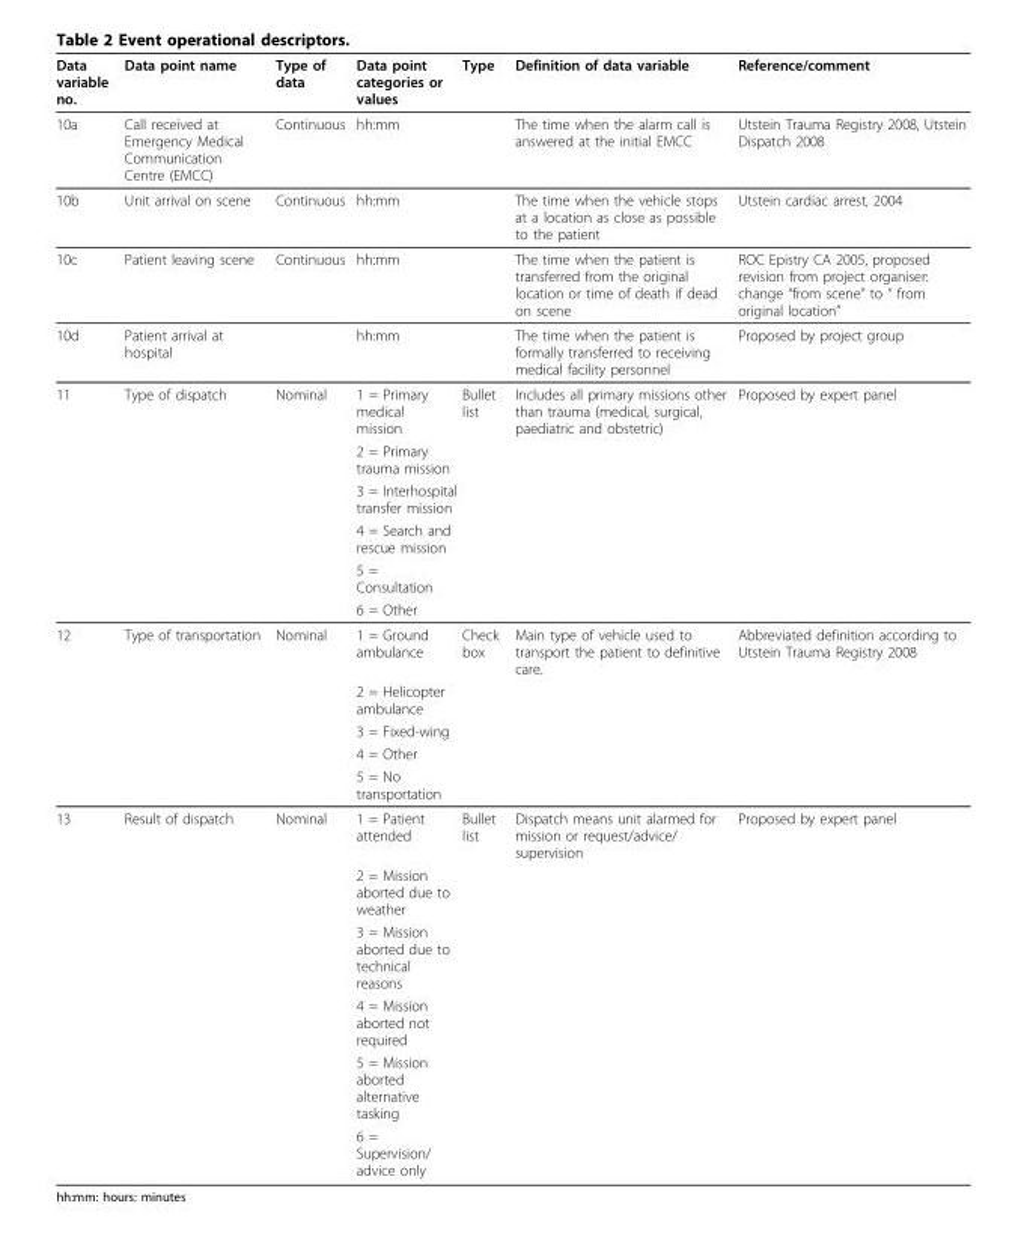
<table><thead><tr><td>Data variable no.</td><td>Data point name</td><td>Type of data</td><td>Data point categories or values</td><td>Type</td><td>Definition of data variable</td><td>Reference/comment</td></tr></thead><tbody><tr><td>10a</td><td>Call received at Emergency Medical Communication Centre (EMCC)</td><td>Continuous</td><td>hh:mm</td><td></td><td>The time when the alarm call is answered at the initial EMCC</td><td>Utstein Trauma Registry 2008, Utstein Dispatch 2008</td></tr><tr><td>10b</td><td>Unit arrival on scene</td><td>Continuous</td><td>hh:mm</td><td></td><td>The time when the vehicle stops at a location as close as possible to the patient</td><td>Utstein cardiac arrest, 2004</td></tr><tr><td>10c</td><td>Patient leaving scene</td><td>Continuous</td><td>hh:mm</td><td></td><td>The time when the patient is transferred from the original location or time of death if dead on scene</td><td>ROC Epistry CA 2005, proposed revision from project organiser: change “from scene” to “ from original location”</td></tr><tr><td>10d</td><td>Patient arrival at hospital</td><td></td><td>hh:mm</td><td></td><td>The time when the patient is formally transferred to receiving medical facility personnel</td><td>Proposed by project group</td></tr><tr><td rowspan="6">11</td><td>Type of dispatch</td><td>Nominal</td><td>1 = Primary medical mission</td><td>Bullet list</td><td>Includes all primary missions other than trauma (medical, surgical, paediatric and obstetric)</td><td>Proposed by expert panel</td></tr><tr><td></td><td></td><td>2 = Primary trauma mission</td><td></td><td></td><td></td></tr><tr><td></td><td></td><td colspan="2">3 = Interhospital transfer mission</td><td></td><td></td></tr><tr><td></td><td></td><td>4 = Search and rescue mission</td><td></td><td></td><td></td></tr><tr><td></td><td></td><td>5 = Consultation</td><td></td><td></td><td></td></tr><tr><td></td><td></td><td>6 = Other</td><td></td><td></td><td></td></tr><tr><td rowspan="5">12</td><td>Type of transportation</td><td>Nominal</td><td>1 = Ground ambulance</td><td>Check box</td><td>Main type of vehicle used to transport the patient to definitive care.</td><td>Abbreviated definition according to Utstein Trauma Registry 2008</td></tr><tr><td></td><td></td><td>2 = Helicopter ambulance</td><td></td><td></td><td></td></tr><tr><td></td><td></td><td>3 = Fixed-wing</td><td></td><td></td><td></td></tr><tr><td></td><td></td><td>4 = Other</td><td></td><td></td><td></td></tr><tr><td></td><td></td><td>5 = No transportation</td><td></td><td></td><td></td></tr><tr><td rowspan="6">13</td><td>Result of dispatch</td><td>Nominal</td><td>1 = Patient attended</td><td>Bullet list</td><td>Dispatch means unit alarmed for mission or request/advice/ supervision</td><td>Proposed by expert panel</td></tr><tr><td></td><td></td><td>2 = Mission aborted due to weather</td><td></td><td></td><td></td></tr><tr><td></td><td></td><td>3 = Mission aborted due to technical reasons</td><td></td><td></td><td></td></tr><tr><td></td><td></td><td>4 = Mission aborted not required</td><td></td><td></td><td></td></tr><tr><td></td><td></td><td>5 = Mission aborted alternative tasking</td><td></td><td></td><td></td></tr><tr><td></td><td></td><td>6 = Supervision/ advice only</td><td></td><td></td><td></td></tr></tbody></table>